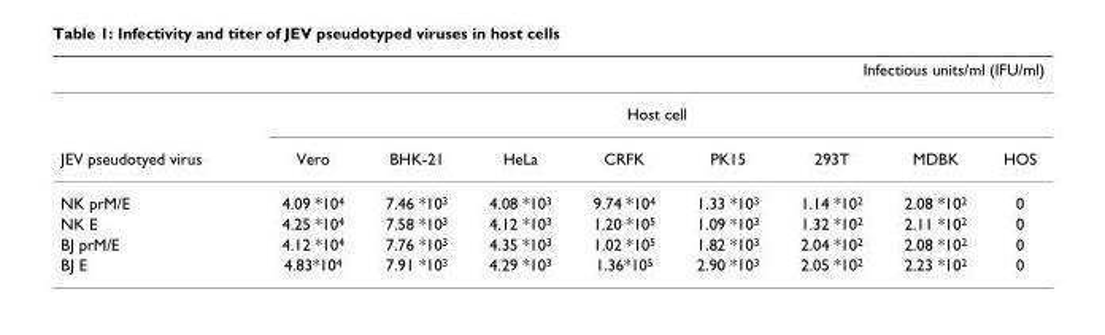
<table><thead><tr><td colspan="9">Infectious units/ml (IFU/ml)</td></tr><tr><td rowspan="2">JEV pseudotyed virus</td><td colspan="8">Host cell</td></tr><tr><td>Vero</td><td>BHK-21</td><td>HeLa</td><td>CRFK</td><td>PK15</td><td>293T</td><td>MDBK</td><td>HOS</td></tr></thead><tbody><tr><td>NK prM/E</td><td>4.09 *10<sup>4</sup></td><td>7.46 *10<sup>3</sup></td><td>4.08 *10<sup>3</sup></td><td>9.74 *10<sup>4</sup></td><td>1.33 *10<sup>3</sup></td><td>1.14 *10<sup>2</sup></td><td>2.08 *10<sup>2</sup></td><td>0</td></tr><tr><td>NK E</td><td>4.25 *10<sup>4</sup></td><td>7.58 *10<sup>3</sup></td><td>4.12 *10<sup>3</sup></td><td>1.20 *10<sup>5</sup></td><td>1.09 *10<sup>3</sup></td><td>1.32 *10<sup>2</sup></td><td>2.11 *10<sup>2</sup></td><td>0</td></tr><tr><td>BJ prM/E</td><td>4.12 *10<sup>4</sup></td><td>7.76 *10<sup>3</sup></td><td>4.35 *10<sup>3</sup></td><td>1.02 *10<sup>5</sup></td><td>1.82 *10<sup>3</sup></td><td>2.04 *10<sup>2</sup></td><td>2.08 *10<sup>2</sup></td><td>0</td></tr><tr><td>BJ E</td><td>4.83*10<sup>4</sup></td><td>7.91 *10<sup>3</sup></td><td>4.29 *10<sup>3</sup></td><td>1.36*10<sup>5</sup></td><td>2.90 *10<sup>3</sup></td><td>2.05 *10<sup>2</sup></td><td>2.23 *10<sup>2</sup></td><td>0</td></tr></tbody></table>